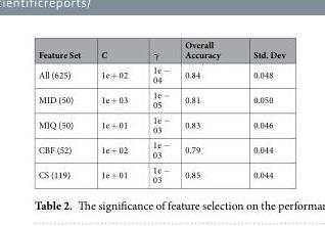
<table><thead><tr><td>Feature Set</td><td>C</td><td>γ</td><td>Overall Accuracy</td><td>Std. Dev</td></tr></thead><tbody><tr><td>All (625)</td><td>1e + 02</td><td>1e − 04</td><td>0.84</td><td>0.048</td></tr><tr><td>MID (50)</td><td>1e + 03</td><td>1e − 05</td><td>0.81</td><td>0.050</td></tr><tr><td>MIQ (50)</td><td>1e + 01</td><td>1e − 03</td><td>0.83</td><td>0.046</td></tr><tr><td>CBF (52)</td><td>1e + 02</td><td>1e − 03</td><td>0.79</td><td>0.044</td></tr><tr><td>CS (119)</td><td>1e + 01</td><td>1e − 03</td><td>0.85</td><td>0.044</td></tr></tbody></table>